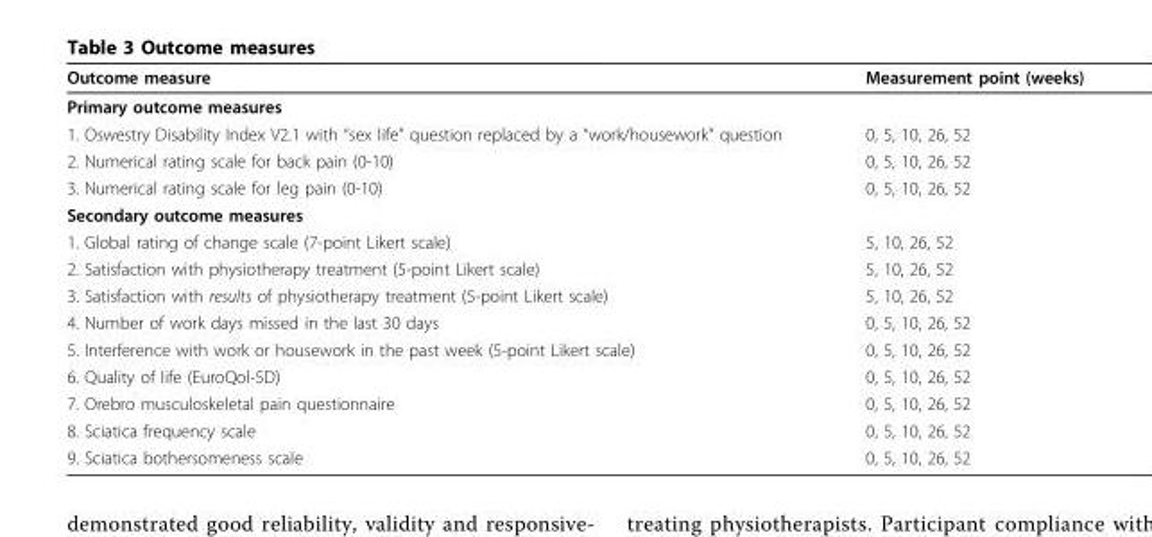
<table><thead><tr><td>Outcome measure</td><td>Measurement point (weeks)</td></tr></thead><tbody><tr><td colspan="2">Primary outcome measures</td></tr><tr><td>1. Oswestry Disability Index V2.1 with “sex life” question replaced by a “work/housework” question</td><td>0, 5, 10, 26, 52</td></tr><tr><td>2. Numerical rating scale for back pain (0-10)</td><td>0, 5, 10, 26, 52</td></tr><tr><td>3. Numerical rating scale for leg pain (0-10)</td><td>0, 5, 10, 26, 52</td></tr><tr><td colspan="2">Secondary outcome measures</td></tr><tr><td>1. Global rating of change scale (7-point Likert scale)</td><td>5, 10, 26, 52</td></tr><tr><td>2. Satisfaction with physiotherapy treatment (5-point Likert scale)</td><td>5, 10, 26, 52</td></tr><tr><td>3. Satisfaction with results of physiotherapy treatment (5-point Likert scale)</td><td>5, 10, 26, 52</td></tr><tr><td>4. Number of work days missed in the last 30 days</td><td>0, 5, 10, 26, 52</td></tr><tr><td>5. Interference with work or housework in the past week (5-point Likert scale)</td><td>0, 5, 10, 26, 52</td></tr><tr><td>6. Quality of life (EuroQol-5D)</td><td>0, 5, 10, 26, 52</td></tr><tr><td>7. Orebro musculoskeletal pain questionnaire</td><td>0, 5, 10, 26, 52</td></tr><tr><td>8. Sciatica frequency scale</td><td>0, 5, 10, 26, 52</td></tr><tr><td>9. Sciatica bothersomeness scale</td><td>0, 5, 10, 26, 52</td></tr></tbody></table>